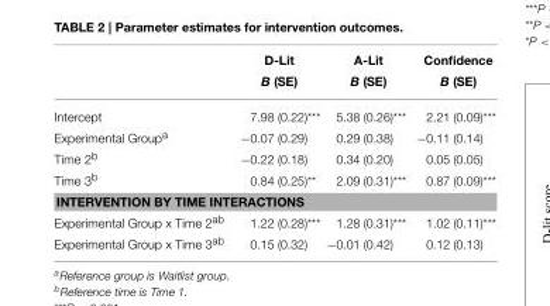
<table><thead><tr><td></td><td>D-Lit B (SE)</td><td>A-Lit B (SE)</td><td>Confidence B (SE)</td></tr></thead><tbody><tr><td>Intercept</td><td>7.98 (0.22)***</td><td>5.38 (0.26)***</td><td>2.21 (0.09)***</td></tr><tr><td>Experimental Group<sup>a</sup></td><td>−0.07 (0.29)</td><td>0.29 (0.38)</td><td>−0.11 (0.14)</td></tr><tr><td>Time 2b</td><td>−0.22 (0.18)</td><td>0.34 (0.20)</td><td>0.05 (0.05)</td></tr><tr><td>Time 3<sup>b</sup></td><td>0.84 (0.25)**</td><td>2.09 (0.31)***</td><td>0.87 (0.09)***</td></tr><tr><td colspan="4">INTERVENTION BY TIME INTERACTIONS</td></tr><tr><td>Experimental Group x Time 2<sup>ab</sup></td><td>1.22 (0.28)***</td><td>1.28 (0.31)***</td><td>1.02 (0.11)***</td></tr><tr><td>Experimental Group x Time 3<sup>ab</sup></td><td>0.15 (0.32)</td><td>−0.01 (0.42)</td><td>0.12 (0.13)</td></tr></tbody></table>